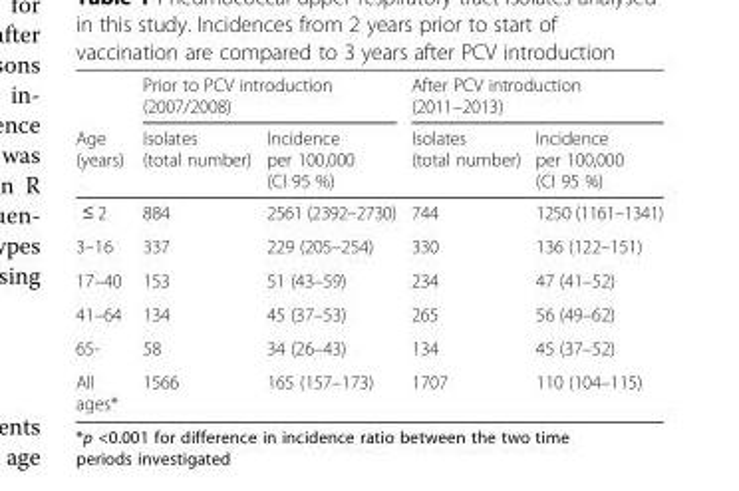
<table><thead><tr><td rowspan="2">Age (years)</td><td colspan="2">Prior to PCV introduction (2007/2008)</td><td colspan="2">After PCV introduction (2011–2013)</td></tr><tr><td>Isolates (total number)</td><td>Incidence per 100,000 (CI 95 %)</td><td>Isolates (total number)</td><td>Incidence per 100,000 (CI 95 %)</td></tr></thead><tbody><tr><td>≤ 2</td><td>884</td><td>2561 (2392–2730)</td><td>744</td><td>1250 (1161–1341)</td></tr><tr><td>3–16</td><td>337</td><td>229 (205–254)</td><td>330</td><td>136 (122–151)</td></tr><tr><td>17–40</td><td>153</td><td>51 (43–59)</td><td>234</td><td>47 (41–52)</td></tr><tr><td>41–64</td><td>134</td><td>45 (37–53)</td><td>265</td><td>56 (49–62)</td></tr><tr><td>65-</td><td>58</td><td>34 (26–43)</td><td>134</td><td>45 (37–52)</td></tr><tr><td>All ages*</td><td>1566</td><td>165 (157–173)</td><td>1707</td><td>110 (104–115)</td></tr></tbody></table>